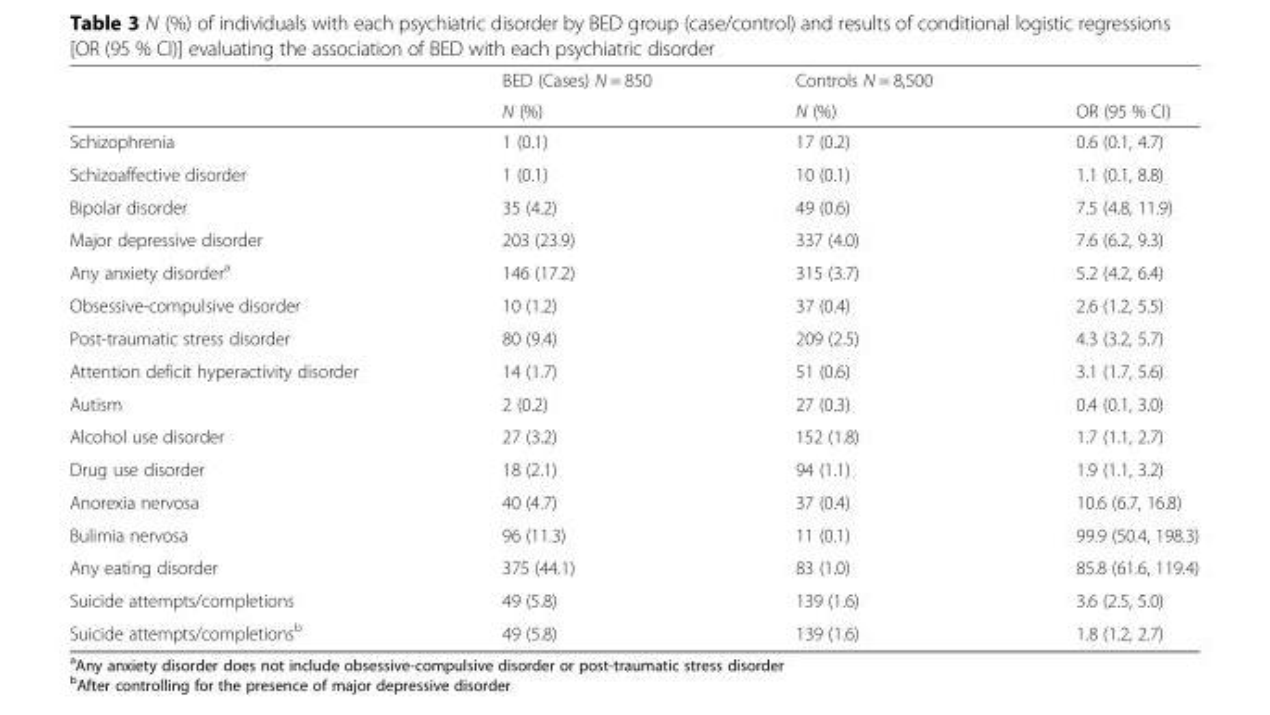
<table><thead><tr><td rowspan="2"></td><td rowspan="2">BED (Cases) N = 850 N (%)</td><td rowspan="2">Controls N = 8,500 N (%)</td><td rowspan="2">OR (95 % CI)</td></tr><tr></tr></thead><tbody><tr><td>Schizophrenia</td><td>1 (0.1)</td><td>17 (0.2)</td><td>0.6 (0.1, 4.7)</td></tr><tr><td>Schizoaffective disorder</td><td>1 (0.1)</td><td>10 (0.1)</td><td>1.1 (0.1, 8.8)</td></tr><tr><td>Bipolar disorder</td><td>35 (4.2)</td><td>49 (0.6)</td><td>7.5 (4.8, 11.9)</td></tr><tr><td>Major depressive disorder</td><td>203 (23.9)</td><td>337 (4.0)</td><td>7.6 (6.2, 9.3)</td></tr><tr><td>Any anxiety disorder<sup>a</sup></td><td>146 (17.2)</td><td>315 (3.7)</td><td>5.2 (4.2, 6.4)</td></tr><tr><td>Obsessive-compulsive disorder</td><td>10 (1.2)</td><td>37 (0.4)</td><td>2.6 (1.2, 5.5)</td></tr><tr><td>Post-traumatic stress disorder</td><td>80 (9.4)</td><td>209 (2.5)</td><td>4.3 (3.2, 5.7)</td></tr><tr><td>Attention deficit hyperactivity disorder</td><td>14 (1.7)</td><td>51 (0.6)</td><td>3.1 (1.7, 5.6)</td></tr><tr><td>Autism</td><td>2 (0.2)</td><td>27 (0.3)</td><td>0.4 (0.1, 3.0)</td></tr><tr><td>Alcohol use disorder</td><td>27 (3.2)</td><td>152 (1.8)</td><td>1.7 (1.1, 2.7)</td></tr><tr><td>Drug use disorder</td><td>18 (2.1)</td><td>94 (1.1)</td><td>1.9 (1.1, 3.2)</td></tr><tr><td>Anorexia nervosa</td><td>40 (4.7)</td><td>37 (0.4)</td><td>10.6 (6.7, 16.8)</td></tr><tr><td>Bulimia nervosa</td><td>96 (11.3)</td><td>11 (0.1)</td><td>99.9 (50.4, 198.3)</td></tr><tr><td>Any eating disorder</td><td>375 (44.1)</td><td>83 (1.0)</td><td>85.8 (61.6, 119.4)</td></tr><tr><td>Suicide attempts/completions</td><td>49 (5.8)</td><td>139 (1.6)</td><td>3.6 (2.5, 5.0)</td></tr><tr><td>Suicide attempts/completions<sup>b</sup></td><td>49 (5.8)</td><td>139 (1.6)</td><td>1.8 (1.2, 2.7)</td></tr></tbody></table>